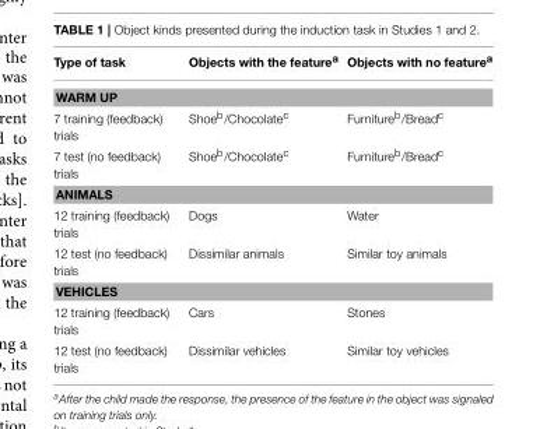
<table><thead><tr><td>Type of task</td><td>Objects with the feature<sup>a</sup></td><td>Objects with no feature<sup>a</sup></td></tr></thead><tbody><tr><td colspan="3">WARM UP</td></tr><tr><td>7 training (feedback) trials</td><td>Shoe<sup>b</sup>/Chocolate<sup>c</sup></td><td>Furniture<sup>b</sup>/Bread<sup>c</sup></td></tr><tr><td>7 test (no feedback) trials</td><td>Shoe<sup>b</sup>/Chocolate<sup>c</sup></td><td>Furniture<sup>b</sup>/Bread<sup>c</sup></td></tr><tr><td colspan="3">ANIMALS</td></tr><tr><td>12 training (feedback) trials</td><td>Dogs</td><td>Water</td></tr><tr><td>12 test (no feedback) trials</td><td>Dissimilar animals</td><td>Similar toy animals</td></tr><tr><td colspan="3">VEHICLES</td></tr><tr><td>12 training (feedback) trials</td><td>Cars</td><td>Stones</td></tr><tr><td>12 test (no feedback) trials</td><td>Dissimilar vehicles</td><td>Similar toy vehicles</td></tr></tbody></table>